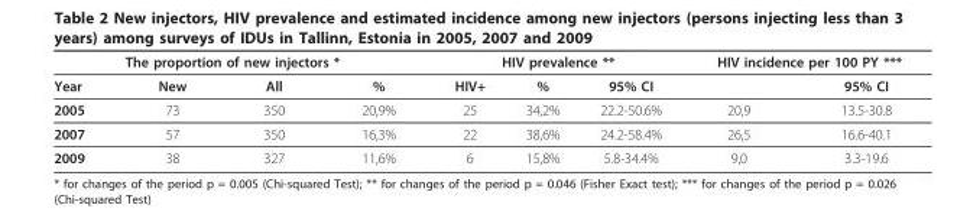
<table><thead><tr><td rowspan="2">Year</td><td colspan="3">The proportion of new injectors *</td><td colspan="3">HIV prevalence **</td><td colspan="2">HIV incidence per 100 PY ***</td></tr><tr><td>New</td><td>All</td><td>%</td><td>HIV+</td><td>%</td><td>95% CI</td><td></td><td>95% CI</td></tr></thead><tbody><tr><td>2005</td><td>73</td><td>350</td><td>20,9%</td><td>25</td><td>34,2%</td><td>22.2-50.6%</td><td>20,9</td><td>13.5-30.8</td></tr><tr><td>2007</td><td>57</td><td>350</td><td>16,3%</td><td>22</td><td>38,6%</td><td>24.2-58.4%</td><td>26,5</td><td>16.6-40.1</td></tr><tr><td>2009</td><td>38</td><td>327</td><td>11,6%</td><td>6</td><td>15,8%</td><td>5.8-34.4%</td><td>9,0</td><td>3.3-19.6</td></tr></tbody></table>